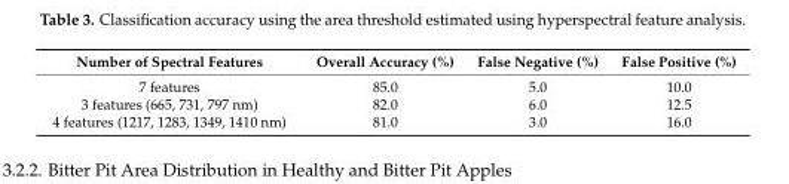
<table><thead><tr><td>Number of Spectral Features</td><td>Overall Accuracy (%)</td><td>False Negative (%)</td><td>False Positive (%)</td></tr></thead><tbody><tr><td>7 features</td><td>85.0</td><td>5.0</td><td>10.0</td></tr><tr><td>3 features (665, 731, 797 nm)</td><td>82.0</td><td>6.0</td><td>12.5</td></tr><tr><td>4 features (1217, 1283, 1349, 1410 nm)</td><td>81.0</td><td>3.0</td><td>16.0</td></tr></tbody></table>